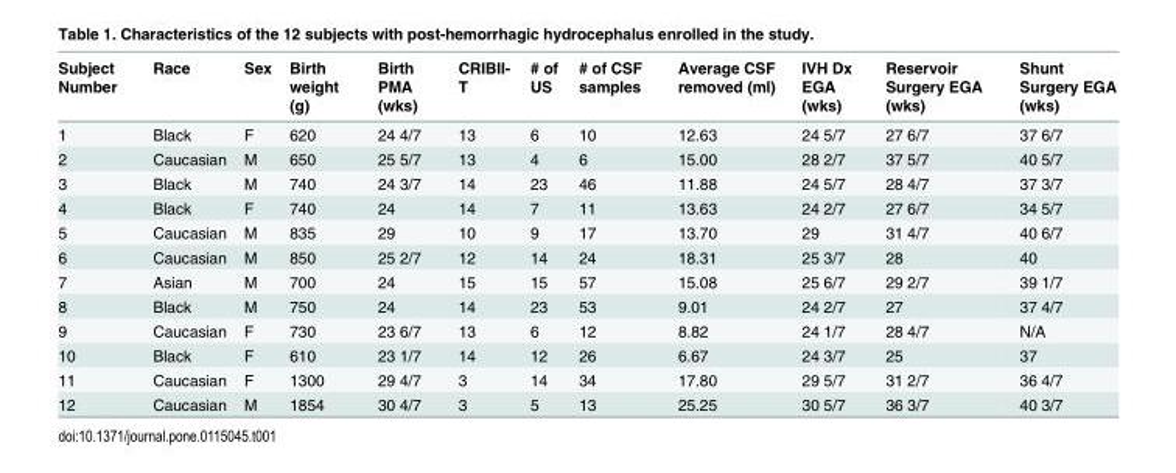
<table><thead><tr><td>Subject Number</td><td>Race</td><td>Sex</td><td>Birth weight (g)</td><td>Birth PMA (wks)</td><td>CRIBII- T</td><td># of US</td><td># of CSF samples</td><td>Average CSF removed (ml)</td><td>IVH Dx EGA (wks)</td><td>Reservoir Surgery EGA (wks)</td><td>Shunt Surgery EGA (wks)</td></tr></thead><tbody><tr><td>1</td><td>Black</td><td>F</td><td>620</td><td>24 4/7</td><td>13</td><td>6</td><td>10</td><td>12.63</td><td>24 5/7</td><td>27 6/7</td><td>37 6/7</td></tr><tr><td>2</td><td>Caucasian</td><td>M</td><td>650</td><td>25 5/7</td><td>13</td><td>4</td><td>6</td><td>15.00</td><td>28 2/7</td><td>37 5/7</td><td>40 5/7</td></tr><tr><td>3</td><td>Black</td><td>M</td><td>740</td><td>24 3/7</td><td>14</td><td>23</td><td>46</td><td>11.88</td><td>24 5/7</td><td>28 4/7</td><td>37 3/7</td></tr><tr><td>4</td><td>Black</td><td>F</td><td>740</td><td>24</td><td>14</td><td>7</td><td>11</td><td>13.63</td><td>24 2/7</td><td>27 6/7</td><td>34 5/7</td></tr><tr><td>5</td><td>Caucasian</td><td>M</td><td>835</td><td>29</td><td>10</td><td>9</td><td>17</td><td>13.70</td><td>29</td><td>31 4/7</td><td>40 6/7</td></tr><tr><td>6</td><td>Caucasian</td><td>M</td><td>850</td><td>25 2/7</td><td>12</td><td>14</td><td>24</td><td>18.31</td><td>25 3/7</td><td>28</td><td>40</td></tr><tr><td>7</td><td>Asian</td><td>M</td><td>700</td><td>24</td><td>15</td><td>15</td><td>57</td><td>15.08</td><td>25 6/7</td><td>29 2/7</td><td>39 1/7</td></tr><tr><td>8</td><td>Black</td><td>M</td><td>750</td><td>24</td><td>14</td><td>23</td><td>53</td><td>9.01</td><td>24 2/7</td><td>27</td><td>37 4/7</td></tr><tr><td>9</td><td>Caucasian</td><td>F</td><td>730</td><td>23 6/7</td><td>13</td><td>6</td><td>12</td><td>8.82</td><td>24 1/7</td><td>28 4/7</td><td>N/A</td></tr><tr><td>10</td><td>Black</td><td>F</td><td>610</td><td>23 1/7</td><td>14</td><td>12</td><td>26</td><td>6.67</td><td>24 3/7</td><td>25</td><td>37</td></tr><tr><td>11</td><td>Caucasian</td><td>F</td><td>1300</td><td>29 4/7</td><td>3</td><td>14</td><td>34</td><td>17.80</td><td>29 5/7</td><td>31 2/7</td><td>36 4/7</td></tr><tr><td>12</td><td>Caucasian</td><td>M</td><td>1854</td><td>30 4/7</td><td>3</td><td>5</td><td>13</td><td>25.25</td><td>30 5/7</td><td>36 3/7</td><td>40 3/7</td></tr></tbody></table>